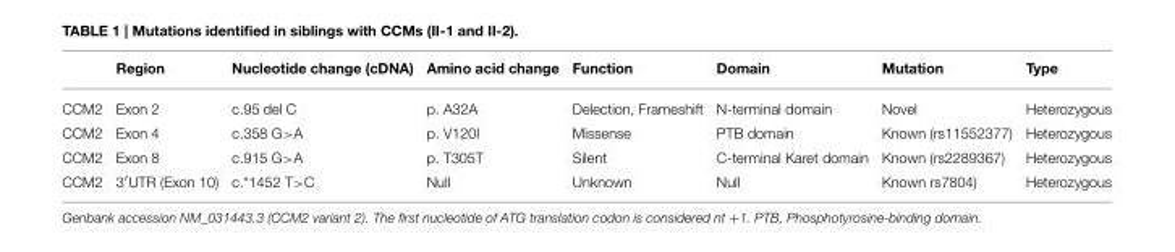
<table><thead><tr><td></td><td>Region</td><td>Nucleotide change (cDNA)</td><td>Amino acid change</td><td>Function</td><td>Domain</td><td>Mutation</td><td>Type</td></tr></thead><tbody><tr><td>CCM2</td><td>Exon 2</td><td>c.95 del C</td><td>p. A32A</td><td>Delection, Frameshift</td><td>N-terminal domain</td><td>Novel</td><td>Heterozygous</td></tr><tr><td>CCM2</td><td>Exon 4</td><td>c.358 G&gt;A</td><td>p. V120I</td><td>Missense</td><td>PTB domain</td><td>Known (rs11552377)</td><td>Heterozygous</td></tr><tr><td>CCM2</td><td>Exon 8</td><td>c.915 G&gt;A</td><td>p. T305T</td><td>Silent</td><td>C-terminal Karet domain</td><td>Known (rs2289367)</td><td>Heterozygous</td></tr><tr><td>CCM2</td><td>3′UTR (Exon 10)</td><td>c.*1452 T&gt;C</td><td>Null</td><td>Unknown</td><td>Null</td><td>Known rs7804)</td><td>Heterozygous</td></tr></tbody></table>